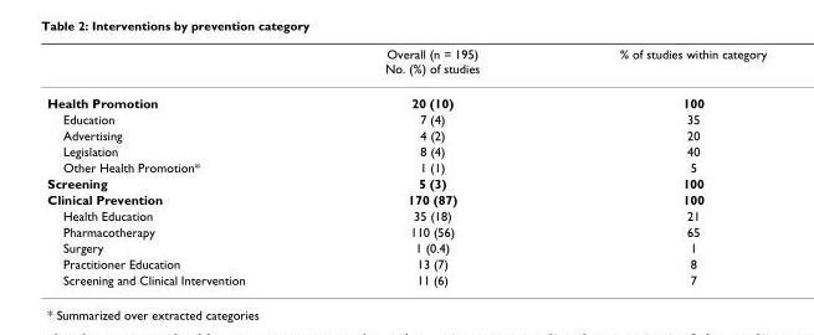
<table><thead><tr><td></td><td>Overall (n = 195) No. (%) of studies</td><td>% of studies within category</td></tr></thead><tbody><tr><td>Health Promotion</td><td>20 (10)</td><td>100</td></tr><tr><td>Education</td><td>7 (4)</td><td>35</td></tr><tr><td>Advertising</td><td>4 (2)</td><td>20</td></tr><tr><td>Legislation</td><td>8 (4)</td><td>40</td></tr><tr><td>Other Health Promotion*</td><td>1 (1)</td><td>5</td></tr><tr><td>Screening</td><td>5 (3)</td><td>100</td></tr><tr><td>Clinical Prevention</td><td>170 (87)</td><td>100</td></tr><tr><td>Health Education</td><td>35 (18)</td><td>21</td></tr><tr><td>Pharmacotherapy</td><td>110 (56)</td><td>65</td></tr><tr><td>Surgery</td><td>1 (0.4)</td><td>1</td></tr><tr><td>Practitioner Education</td><td>13 (7)</td><td>8</td></tr><tr><td>Screening and Clinical Intervention</td><td>11 (6)</td><td>7</td></tr></tbody></table>